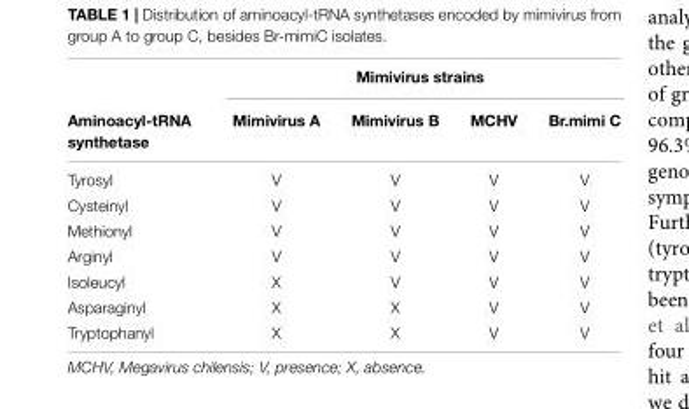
<table><thead><tr><td rowspan="2">Aminoacyl-tRNA synthetase</td><td colspan="4">Mimivirus strains</td></tr><tr><td>Mimivirus A</td><td>Mimivirus B</td><td>MCHV</td><td>Br.mimi C</td></tr></thead><tbody><tr><td>Tyrosyl</td><td>V</td><td>V</td><td>V</td><td>V</td></tr><tr><td>Cysteinyl</td><td>V</td><td>V</td><td>V</td><td>V</td></tr><tr><td>Methionyl</td><td>V</td><td>V</td><td>V</td><td>V</td></tr><tr><td>Arginyl</td><td>V</td><td>V</td><td>V</td><td>V</td></tr><tr><td>Isoleucyl</td><td>X</td><td>V</td><td>V</td><td>V</td></tr><tr><td>Asparaginyl</td><td>X</td><td>X</td><td>V</td><td>V</td></tr><tr><td>Tryptophanyl</td><td>X</td><td>X</td><td>V</td><td>V</td></tr></tbody></table>